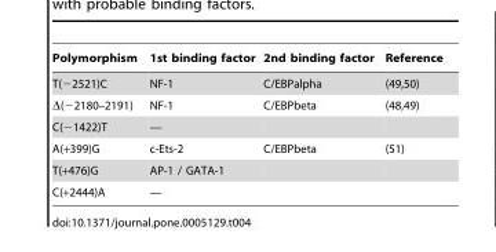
<table><thead><tr><td>Polymorphism</td><td>1st binding factor</td><td>2nd binding factor</td><td>Reference</td></tr></thead><tbody><tr><td>T(−2521)C</td><td>NF-1</td><td>C/EBPalpha</td><td>(49,50)</td></tr><tr><td>Δ(−2180–2191)</td><td>NF-1</td><td>C/EBPbeta</td><td>(48,49)</td></tr><tr><td>C(−1422)T</td><td>—</td><td></td><td></td></tr><tr><td>A(+399)G</td><td>c-Ets-2</td><td>C/EBPbeta</td><td>(51)</td></tr><tr><td>T(+476)G</td><td>AP-1 / GATA-1</td><td></td><td></td></tr><tr><td>C(+2444)A</td><td>—</td><td></td><td></td></tr></tbody></table>